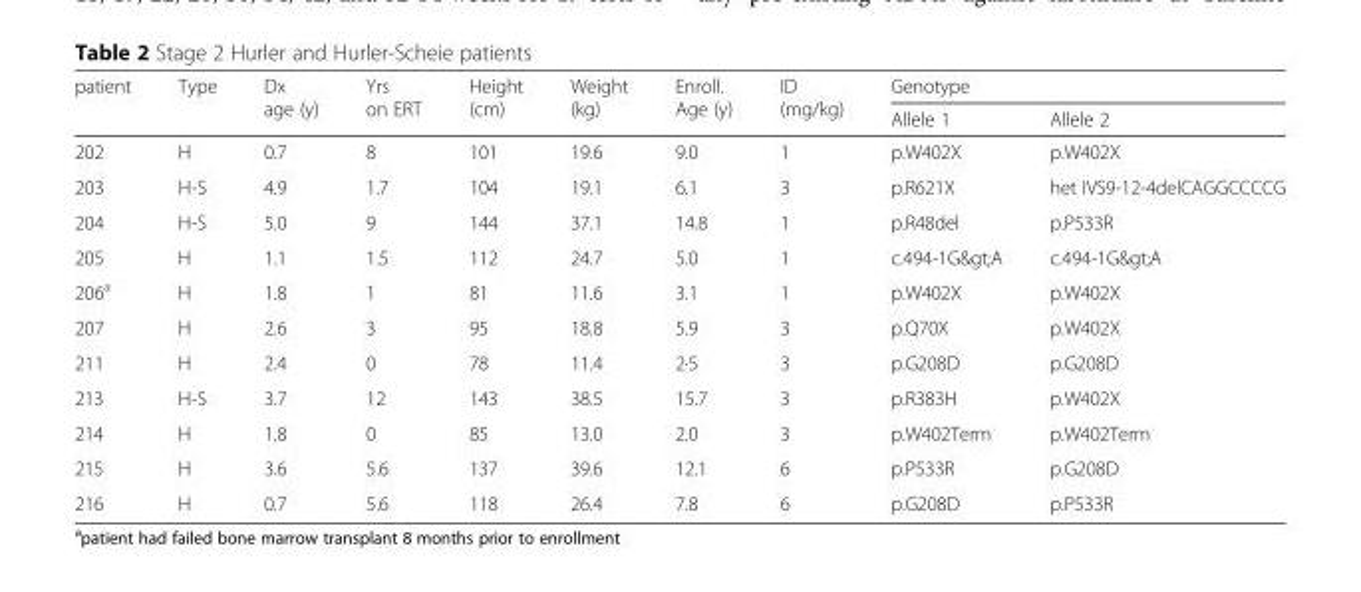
<table><thead><tr><td rowspan="2">patient</td><td rowspan="2">Type</td><td rowspan="2">Dx age (y)</td><td rowspan="2">Yrs on ERT</td><td rowspan="2">Height (cm)</td><td rowspan="2">Weight (kg)</td><td rowspan="2">Enroll. Age (y)</td><td rowspan="2">ID (mg/kg)</td><td colspan="2">Genotype</td></tr><tr><td>Allele 1</td><td>Allele 2</td></tr></thead><tbody><tr><td>202</td><td>H</td><td>0.7</td><td>8</td><td>101</td><td>19.6</td><td>9.0</td><td>1</td><td>p.W402X</td><td>p.W402X</td></tr><tr><td>203</td><td>H-S</td><td>4.9</td><td>1.7</td><td>104</td><td>19.1</td><td>6.1</td><td>3</td><td>p.R621X</td><td>het IVS9-12-4delCAGGCCCCG</td></tr><tr><td>204</td><td>H-S</td><td>5.0</td><td>9</td><td>144</td><td>37.1</td><td>14.8</td><td>1</td><td>p.R48del</td><td>p.P533R</td></tr><tr><td>205</td><td>H</td><td>1.1</td><td>1.5</td><td>112</td><td>24.7</td><td>5.0</td><td>1</td><td>c.494-1G&amp;gt;A</td><td>c.494-1G&amp;gt;A</td></tr><tr><td>206<sup>a</sup></td><td>H</td><td>1.8</td><td>1</td><td>81</td><td>11.6</td><td>3.1</td><td>1</td><td>p.W402X</td><td>p.W402X</td></tr><tr><td>207</td><td>H</td><td>2.6</td><td>3</td><td>95</td><td>18.8</td><td>5.9</td><td>3</td><td>p.Q70X</td><td>p.W402X</td></tr><tr><td>211</td><td>H</td><td>2.4</td><td>0</td><td>78</td><td>11.4</td><td>2∙5</td><td>3</td><td>p.G208D</td><td>p.G208D</td></tr><tr><td>213</td><td>H-S</td><td>3.7</td><td>12</td><td>143</td><td>38.5</td><td>15.7</td><td>3</td><td>p.R383H</td><td>p.W402X</td></tr><tr><td>214</td><td>H</td><td>1.8</td><td>0</td><td>85</td><td>13.0</td><td>2.0</td><td>3</td><td>p.W402Term</td><td>p.W402Term</td></tr><tr><td>215</td><td>H</td><td>3.6</td><td>5.6</td><td>137</td><td>39.6</td><td>12.1</td><td>6</td><td>p.P533R</td><td>p.G208D</td></tr><tr><td>216</td><td>H</td><td>0.7</td><td>5.6</td><td>118</td><td>26.4</td><td>7.8</td><td>6</td><td>p.G208D</td><td>p.P533R</td></tr></tbody></table>